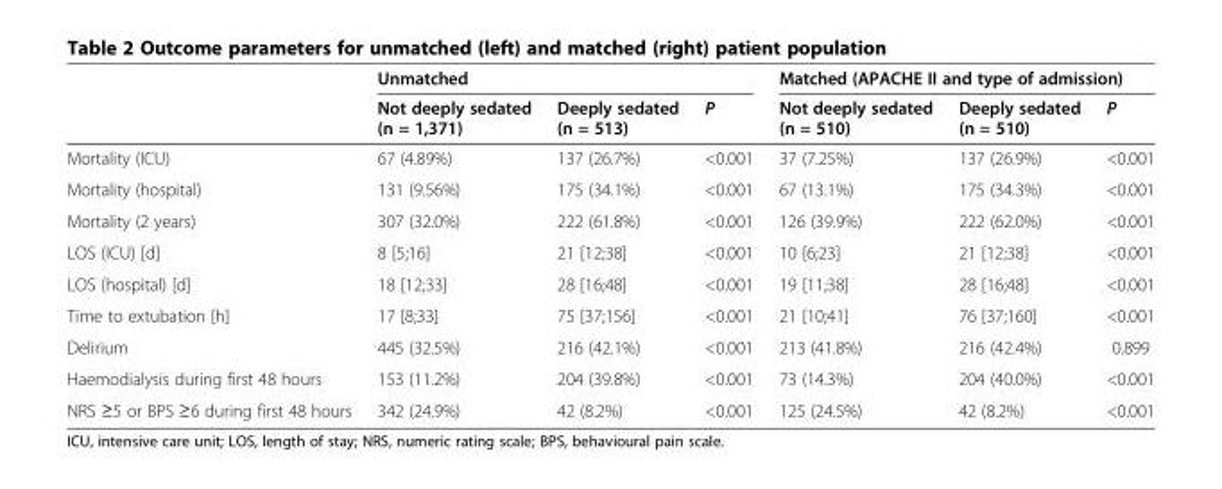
<table><thead><tr><td rowspan="2"></td><td colspan="3">Unmatched</td><td colspan="3">Matched (APACHE II and type of admission)</td></tr><tr><td>Not deeply sedated (n = 1,371)</td><td>Deeply sedated (n = 513)</td><td>P</td><td>Not deeply sedated (n = 510)</td><td>Deeply sedated (n = 510)</td><td>P</td></tr></thead><tbody><tr><td>Mortality (ICU)</td><td>67 (4.89%)</td><td>137 (26.7%)</td><td>&lt;0.001</td><td>37 (7.25%)</td><td>137 (26.9%)</td><td>&lt;0.001</td></tr><tr><td>Mortality (hospital)</td><td>131 (9.56%)</td><td>175 (34.1%)</td><td>&lt;0.001</td><td>67 (13.1%)</td><td>175 (34.3%)</td><td>&lt;0.001</td></tr><tr><td>Mortality (2 years)</td><td>307 (32.0%)</td><td>222 (61.8%)</td><td>&lt;0.001</td><td>126 (39.9%)</td><td>222 (62.0%)</td><td>&lt;0.001</td></tr><tr><td>LOS (ICU) [d]</td><td>8 [5;16]</td><td>21 [12;38]</td><td>&lt;0.001</td><td>10 [6;23]</td><td>21 [12;38]</td><td>&lt;0.001</td></tr><tr><td>LOS (hospital) [d]</td><td>18 [12;33]</td><td>28 [16;48]</td><td>&lt;0.001</td><td>19 [11;38]</td><td>28 [16;48]</td><td>&lt;0.001</td></tr><tr><td>Time to extubation [h]</td><td>17 [8;33]</td><td>75 [37;156]</td><td>&lt;0.001</td><td>21 [10;41]</td><td>76 [37;160]</td><td>&lt;0.001</td></tr><tr><td>Delirium</td><td>445 (32.5%)</td><td>216 (42.1%)</td><td>&lt;0.001</td><td>213 (41.8%)</td><td>216 (42.4%)</td><td>0.899</td></tr><tr><td>Haemodialysis during first 48 hours</td><td>153 (11.2%)</td><td>204 (39.8%)</td><td>&lt;0.001</td><td>73 (14.3%)</td><td>204 (40.0%)</td><td>&lt;0.001</td></tr><tr><td>NRS ≥5 or BPS ≥6 during first 48 hours</td><td>342 (24.9%)</td><td>42 (8.2%)</td><td>&lt;0.001</td><td>125 (24.5%)</td><td>42 (8.2%)</td><td>&lt;0.001</td></tr></tbody></table>